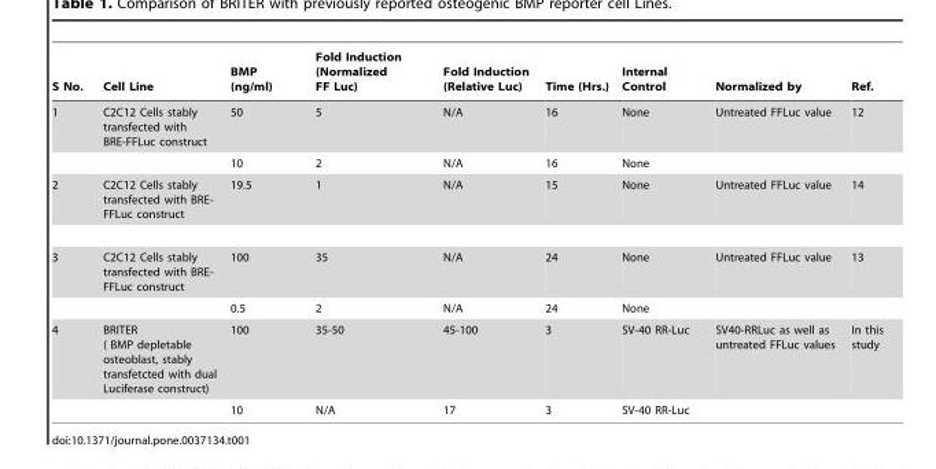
<table><thead><tr><td>S No.</td><td>Cell Line</td><td>BMP (ng/ml)</td><td>Fold Induction (Normalized FF Luc)</td><td>Fold Induction (Relative Luc)</td><td>Time (Hrs.)</td><td>Internal Control</td><td>Normalized by</td><td>Ref.</td></tr></thead><tbody><tr><td rowspan="2">1</td><td>C2C12 Cells stably transfected with BRE-FFLuc construct</td><td>50</td><td>5</td><td>N/A</td><td>16</td><td>None</td><td>Untreated FFLuc value</td><td>12</td></tr><tr><td></td><td>10</td><td>2</td><td>N/A</td><td>16</td><td>None</td><td></td><td></td></tr><tr><td>2</td><td>C2C12 Cells stably transfected with BRE- FFLuc construct</td><td>19.5</td><td>1</td><td>N/A</td><td>15</td><td>None</td><td>Untreated FFLuc value</td><td>14</td></tr><tr><td rowspan="2">3</td><td>C2C12 Cells stably transfected with BRE- FFLuc construct</td><td>100</td><td>35</td><td>N/A</td><td>24</td><td>None</td><td>Untreated FFLuc value</td><td>13</td></tr><tr><td></td><td>0.5</td><td>2</td><td>N/A</td><td>24</td><td>None</td><td></td><td></td></tr><tr><td rowspan="2">4</td><td>BRITER ( BMP depletable osteoblast, stably transfetcted with dual Luciferase construct)</td><td>100</td><td>35-50</td><td>45-100</td><td>3</td><td>SV-40 RR-Luc</td><td>SV40-RRLuc as well as untreated FFLuc values</td><td>In this study</td></tr><tr><td></td><td>10</td><td>N/A</td><td>17</td><td>3</td><td>SV-40 RR-Luc</td><td></td><td></td></tr></tbody></table>